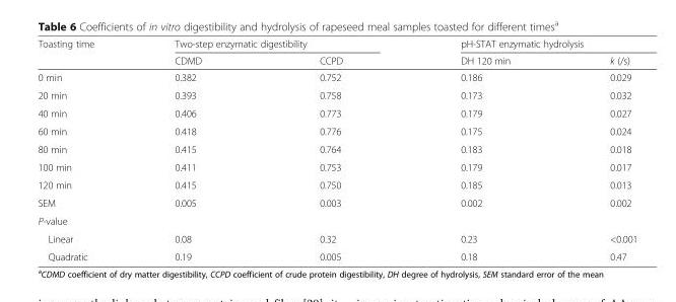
<table><thead><tr><td rowspan="2">Toasting time</td><td colspan="2">Two-step enzymatic digestibility</td><td colspan="2">pH-STAT enzymatic hydrolysis</td></tr><tr><td>CDMD</td><td>CCPD</td><td>DH 120 min</td><td>k (/s)</td></tr></thead><tbody><tr><td>0 min</td><td>0.382</td><td>0.752</td><td>0.186</td><td>0.029</td></tr><tr><td>20 min</td><td>0.393</td><td>0.758</td><td>0.173</td><td>0.032</td></tr><tr><td>40 min</td><td>0.406</td><td>0.773</td><td>0.179</td><td>0.027</td></tr><tr><td>60 min</td><td>0.418</td><td>0.776</td><td>0.175</td><td>0.024</td></tr><tr><td>80 min</td><td>0.415</td><td>0.764</td><td>0.183</td><td>0.018</td></tr><tr><td>100 min</td><td>0.411</td><td>0.753</td><td>0.179</td><td>0.017</td></tr><tr><td>120 min</td><td>0.415</td><td>0.750</td><td>0.185</td><td>0.013</td></tr><tr><td>SEM</td><td>0.005</td><td>0.003</td><td>0.002</td><td>0.002</td></tr><tr><td colspan="5">P-value</td></tr><tr><td>Linear</td><td>0.08</td><td>0.32</td><td>0.23</td><td>&lt;0.001</td></tr><tr><td>Quadratic</td><td>0.19</td><td>0.005</td><td>0.18</td><td>0.47</td></tr></tbody></table>